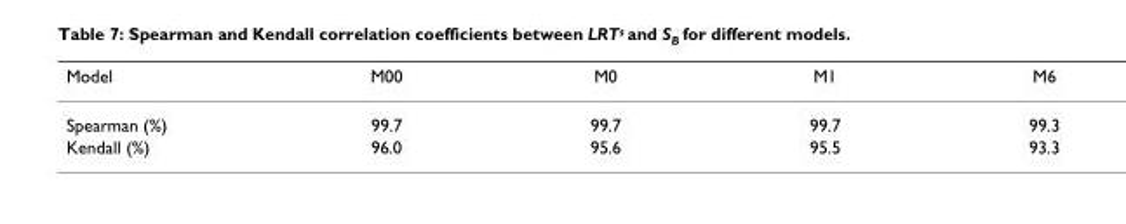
<table><thead><tr><td>Model</td><td>M00</td><td>M0</td><td>M1</td><td>M6</td></tr></thead><tbody><tr><td>Spearman (%)</td><td>99.7</td><td>99.7</td><td>99.7</td><td>99.3</td></tr><tr><td>Kendall (%)</td><td>96.0</td><td>95.6</td><td>95.5</td><td>93.3</td></tr></tbody></table>